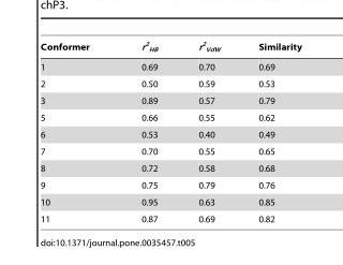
<table><thead><tr><td>Conformer</td><td>r<sup>2</sup> <sub>HB</sub></td><td>r<sup>2</sup> <sub>VdW</sub></td><td>Similarity</td></tr></thead><tbody><tr><td>1</td><td>0.69</td><td>0.70</td><td>0.69</td></tr><tr><td>2</td><td>0.50</td><td>0.59</td><td>0.53</td></tr><tr><td>3</td><td>0.89</td><td>0.57</td><td>0.79</td></tr><tr><td>5</td><td>0.66</td><td>0.55</td><td>0.62</td></tr><tr><td>6</td><td>0.53</td><td>0.40</td><td>0.49</td></tr><tr><td>7</td><td>0.70</td><td>0.55</td><td>0.65</td></tr><tr><td>8</td><td>0.72</td><td>0.58</td><td>0.68</td></tr><tr><td>9</td><td>0.75</td><td>0.79</td><td>0.76</td></tr><tr><td>10</td><td>0.95</td><td>0.63</td><td>0.85</td></tr><tr><td>11</td><td>0.87</td><td>0.69</td><td>0.82</td></tr></tbody></table>